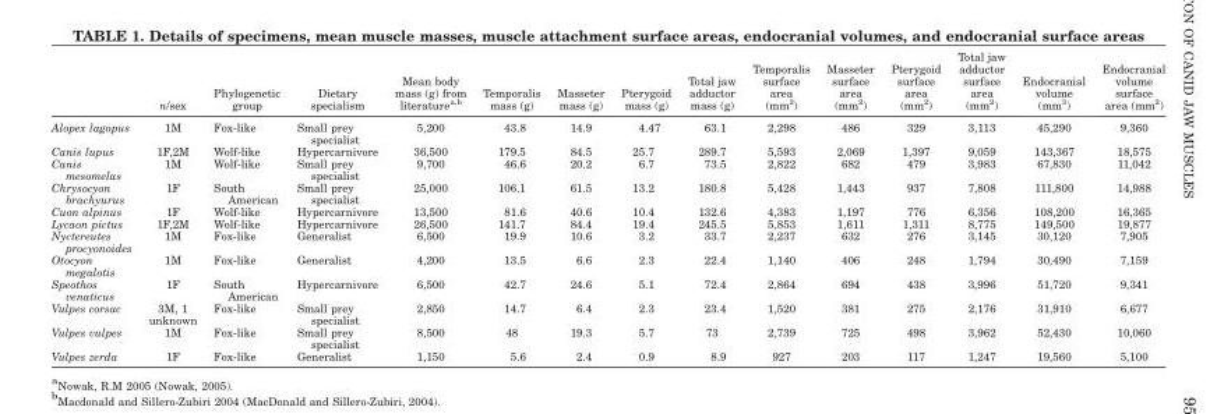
<table><thead><tr><td></td><td>n/sex</td><td>Phylogenetic group</td><td>Dietary specialism</td><td>Mean body mass (g) from literature<sup>a</sup>,<sup>b</sup></td><td>Temporalis mass (g)</td><td>Masseter mass (g)</td><td>Pterygoid mass (g)</td><td>Total jaw adductor mass (g)</td><td>Temporalis surface area (mm<sup>2</sup>)</td><td>Masseter surface area (mm<sup>2</sup>)</td><td>Pterygoid surface area (mm<sup>2</sup>)</td><td>Total jaw adductor surface area (mm<sup>2</sup>)</td><td>Endocranial volume (mm<sup>3</sup>)</td><td>Endocranial volume surface area (mm<sup>2</sup>)</td></tr></thead><tbody><tr><td>Alopex lagopus</td><td>1M</td><td>Fox-like</td><td>Small prey specialist</td><td>5,200</td><td>43.8</td><td>14.9</td><td>4.47</td><td>63.1</td><td>2,298</td><td>486</td><td>329</td><td>3,113</td><td>45,290</td><td>9,360</td></tr><tr><td>Canis lupus</td><td>1F,2M</td><td>Wolf-like</td><td>Hypercarnivore</td><td>36,500</td><td>179.5</td><td>84.5</td><td>25.7</td><td>289.7</td><td>5,593</td><td>2,069</td><td>1,397</td><td>9,059</td><td>143,367</td><td>18,575</td></tr><tr><td>Canis mesomelas</td><td>1M</td><td>Wolf-like</td><td>Small prey specialist</td><td>9,700</td><td>46.6</td><td>20.2</td><td>6.7</td><td>73.5</td><td>2,822</td><td>682</td><td>479</td><td>3,983</td><td>67,830</td><td>11,042</td></tr><tr><td>Chrysocyon brachyurus</td><td>1F</td><td>South American</td><td>Small prey specialist</td><td>25,000</td><td>106.1</td><td>61.5</td><td>13.2</td><td>180.8</td><td>5,428</td><td>1,443</td><td>937</td><td>7,808</td><td>111,800</td><td>14,988</td></tr><tr><td>Cuon alpinus</td><td>1F</td><td>Wolf-like</td><td>Hypercarnivore</td><td>13,500</td><td>81.6</td><td>40.6</td><td>10.4</td><td>132.6</td><td>4,383</td><td>1,197</td><td>776</td><td>6,356</td><td>108,200</td><td>16,365</td></tr><tr><td>Lycaon pictus</td><td>1F,2M</td><td>Wolf-like</td><td>Hypercarnivore</td><td>26,500</td><td>141.7</td><td>84.4</td><td>19.4</td><td>245.5</td><td>5,853</td><td>1,611</td><td>1,311</td><td>8,775</td><td>149,500</td><td>19,877</td></tr><tr><td>Nyctereutes procyonoides</td><td>1M</td><td>Fox-like</td><td>Generalist</td><td>6,500</td><td>19.9</td><td>10.6</td><td>3.2</td><td>33.7</td><td>2,237</td><td>632</td><td>276</td><td>3,145</td><td>30,120</td><td>7,905</td></tr><tr><td>Otocyon megalotis</td><td>1M</td><td>Fox-like</td><td>Generalist</td><td>4,200</td><td>13.5</td><td>6.6</td><td>2.3</td><td>22.4</td><td>1,140</td><td>406</td><td>248</td><td>1,794</td><td>30,490</td><td>7,159</td></tr><tr><td>Speothos venaticus</td><td>1F</td><td>South American</td><td>Hypercarnivore</td><td>6,500</td><td>42.7</td><td>24.6</td><td>5.1</td><td>72.4</td><td>2,864</td><td>694</td><td>438</td><td>3,996</td><td>51,720</td><td>9,341</td></tr><tr><td>Vulpes corsac</td><td>3M, 1 unknown</td><td>Fox-like</td><td>Small prey specialist</td><td>2,850</td><td>14.7</td><td>6.4</td><td>2.3</td><td>23.4</td><td>1,520</td><td>381</td><td>275</td><td>2,176</td><td>31,910</td><td>6,677</td></tr><tr><td>Vulpes vulpes</td><td>1M</td><td>Fox-like</td><td>Small prey specialist</td><td>8,500</td><td>48</td><td>19.3</td><td>5.7</td><td>73</td><td>2,739</td><td>725</td><td>498</td><td>3,962</td><td>52,430</td><td>10,060</td></tr><tr><td>Vulpes zerda</td><td>1F</td><td>Fox-like</td><td>Generalist</td><td>1,150</td><td>5.6</td><td>2.4</td><td>0.9</td><td>8.9</td><td>927</td><td>203</td><td>117</td><td>1,247</td><td>19,560</td><td>5,100</td></tr></tbody></table>